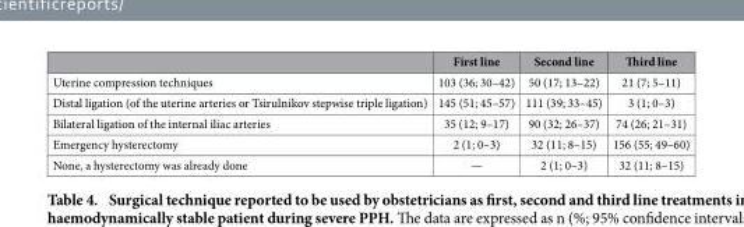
<table><thead><tr><td></td><td>First line</td><td>Second line</td><td>Third line</td></tr></thead><tbody><tr><td>Uterine compression techniques</td><td>103 (36; 30–42)</td><td>50 (17; 13–22)</td><td>21 (7; 5–11)</td></tr><tr><td>Distal ligation (of the uterine arteries or Tsirulnikov stepwise triple ligation)</td><td>145 (51; 45–57)</td><td>111 (39; 33–45)</td><td>3 (1; 0–3)</td></tr><tr><td>Bilateral ligation of the internal iliac arteries</td><td>35 (12; 9–17)</td><td>90 (32; 26–37)</td><td>74 (26; 21–31)</td></tr><tr><td>Emergency hysterectomy</td><td>2 (1; 0–3)</td><td>32 (11; 8–15)</td><td>156 (55; 49–60)</td></tr><tr><td>None, a hysterectomy was already done</td><td>—</td><td>2 (1; 0–3)</td><td>32 (11; 8–15)</td></tr></tbody></table>